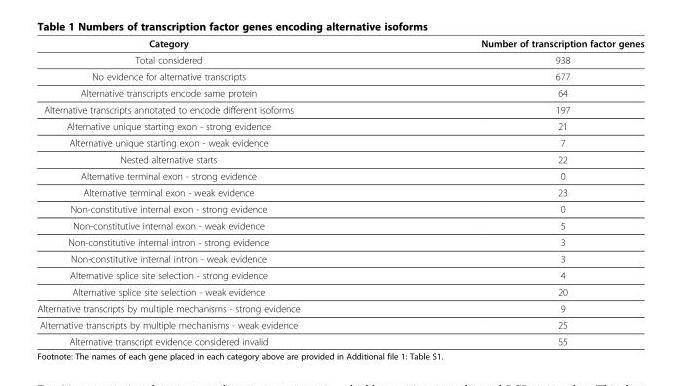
<table><thead><tr><td>Category</td><td>Number of transcription factor genes</td></tr></thead><tbody><tr><td>Total considered</td><td>938</td></tr><tr><td>No evidence for alternative transcripts</td><td>677</td></tr><tr><td>Alternative transcripts encode same protein</td><td>64</td></tr><tr><td>Alternative transcripts annotated to encode different isoforms</td><td>197</td></tr><tr><td>Alternative unique starting exon - strong evidence</td><td>21</td></tr><tr><td>Alternative unique starting exon - weak evidence</td><td>7</td></tr><tr><td>Nested alternative starts</td><td>22</td></tr><tr><td>Alternative terminal exon - strong evidence</td><td>0</td></tr><tr><td>Alternative terminal exon - weak evidence</td><td>23</td></tr><tr><td>Non-constitutive internal exon - strong evidence</td><td>0</td></tr><tr><td>Non-constitutive internal exon - weak evidence</td><td>5</td></tr><tr><td>Non-constitutive internal intron - strong evidence</td><td>3</td></tr><tr><td>Non-constitutive internal intron - weak evidence</td><td>3</td></tr><tr><td>Alternative splice site selection - strong evidence</td><td>4</td></tr><tr><td>Alternative splice site selection - weak evidence</td><td>20</td></tr><tr><td>Alternative transcripts by multiple mechanisms - strong evidence</td><td>9</td></tr><tr><td>Alternative transcripts by multiple mechanisms - weak evidence</td><td>25</td></tr><tr><td>Alternative transcript evidence considered invalid</td><td>55</td></tr></tbody></table>